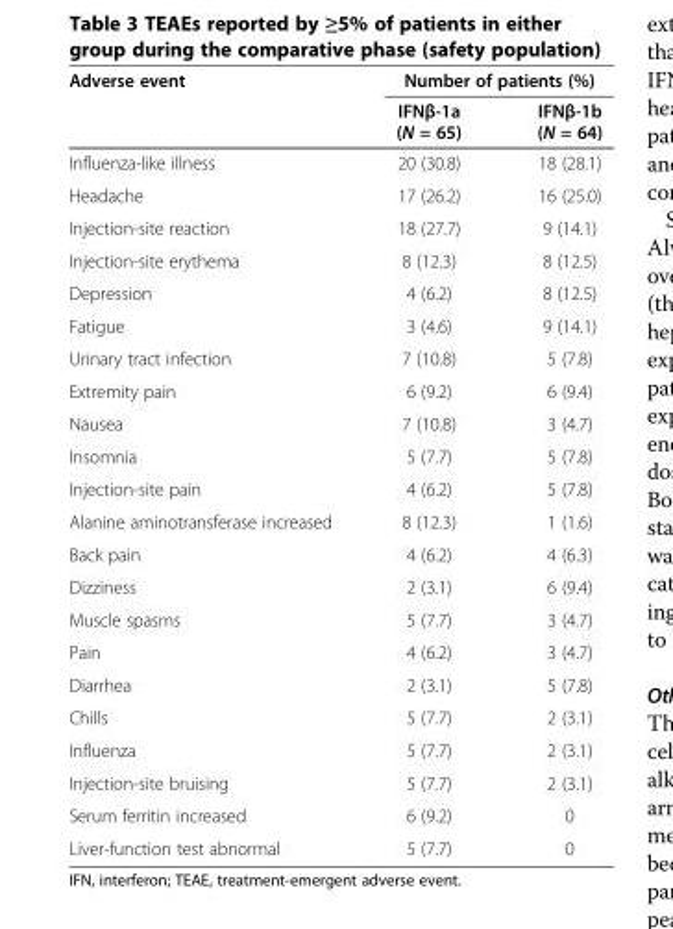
<table><thead><tr><td rowspan="2">Adverse event</td><td colspan="2">Number of patients (%)</td></tr><tr><td>IFNβ-1a (N = 65)</td><td>IFNβ-1b (N = 64)</td></tr></thead><tbody><tr><td>Influenza-like illness</td><td>20 (30.8)</td><td>18 (28.1)</td></tr><tr><td>Headache</td><td>17 (26.2)</td><td>16 (25.0)</td></tr><tr><td>Injection-site reaction</td><td>18 (27.7)</td><td>9 (14.1)</td></tr><tr><td>Injection-site erythema</td><td>8 (12.3)</td><td>8 (12.5)</td></tr><tr><td>Depression</td><td>4 (6.2)</td><td>8 (12.5)</td></tr><tr><td>Fatigue</td><td>3 (4.6)</td><td>9 (14.1)</td></tr><tr><td>Urinary tract infection</td><td>7 (10.8)</td><td>5 (7.8)</td></tr><tr><td>Extremity pain</td><td>6 (9.2)</td><td>6 (9.4)</td></tr><tr><td>Nausea</td><td>7 (10.8)</td><td>3 (4.7)</td></tr><tr><td>Insomnia</td><td>5 (7.7)</td><td>5 (7.8)</td></tr><tr><td>Injection-site pain</td><td>4 (6.2)</td><td>5 (7.8)</td></tr><tr><td>Alanine aminotransferase increased</td><td>8 (12.3)</td><td>1 (1.6)</td></tr><tr><td>Back pain</td><td>4 (6.2)</td><td>4 (6.3)</td></tr><tr><td>Dizziness</td><td>2 (3.1)</td><td>6 (9.4)</td></tr><tr><td>Muscle spasms</td><td>5 (7.7)</td><td>3 (4.7)</td></tr><tr><td>Pain</td><td>4 (6.2)</td><td>3 (4.7)</td></tr><tr><td>Diarrhea</td><td>2 (3.1)</td><td>5 (7.8)</td></tr><tr><td>Chills</td><td>5 (7.7)</td><td>2 (3.1)</td></tr><tr><td>Influenza</td><td>5 (7.7)</td><td>2 (3.1)</td></tr><tr><td>Injection-site bruising</td><td>5 (7.7)</td><td>2 (3.1)</td></tr><tr><td>Serum ferritin increased</td><td>6 (9.2)</td><td>0</td></tr><tr><td>Liver-function test abnormal</td><td>5 (7.7)</td><td>0</td></tr></tbody></table>